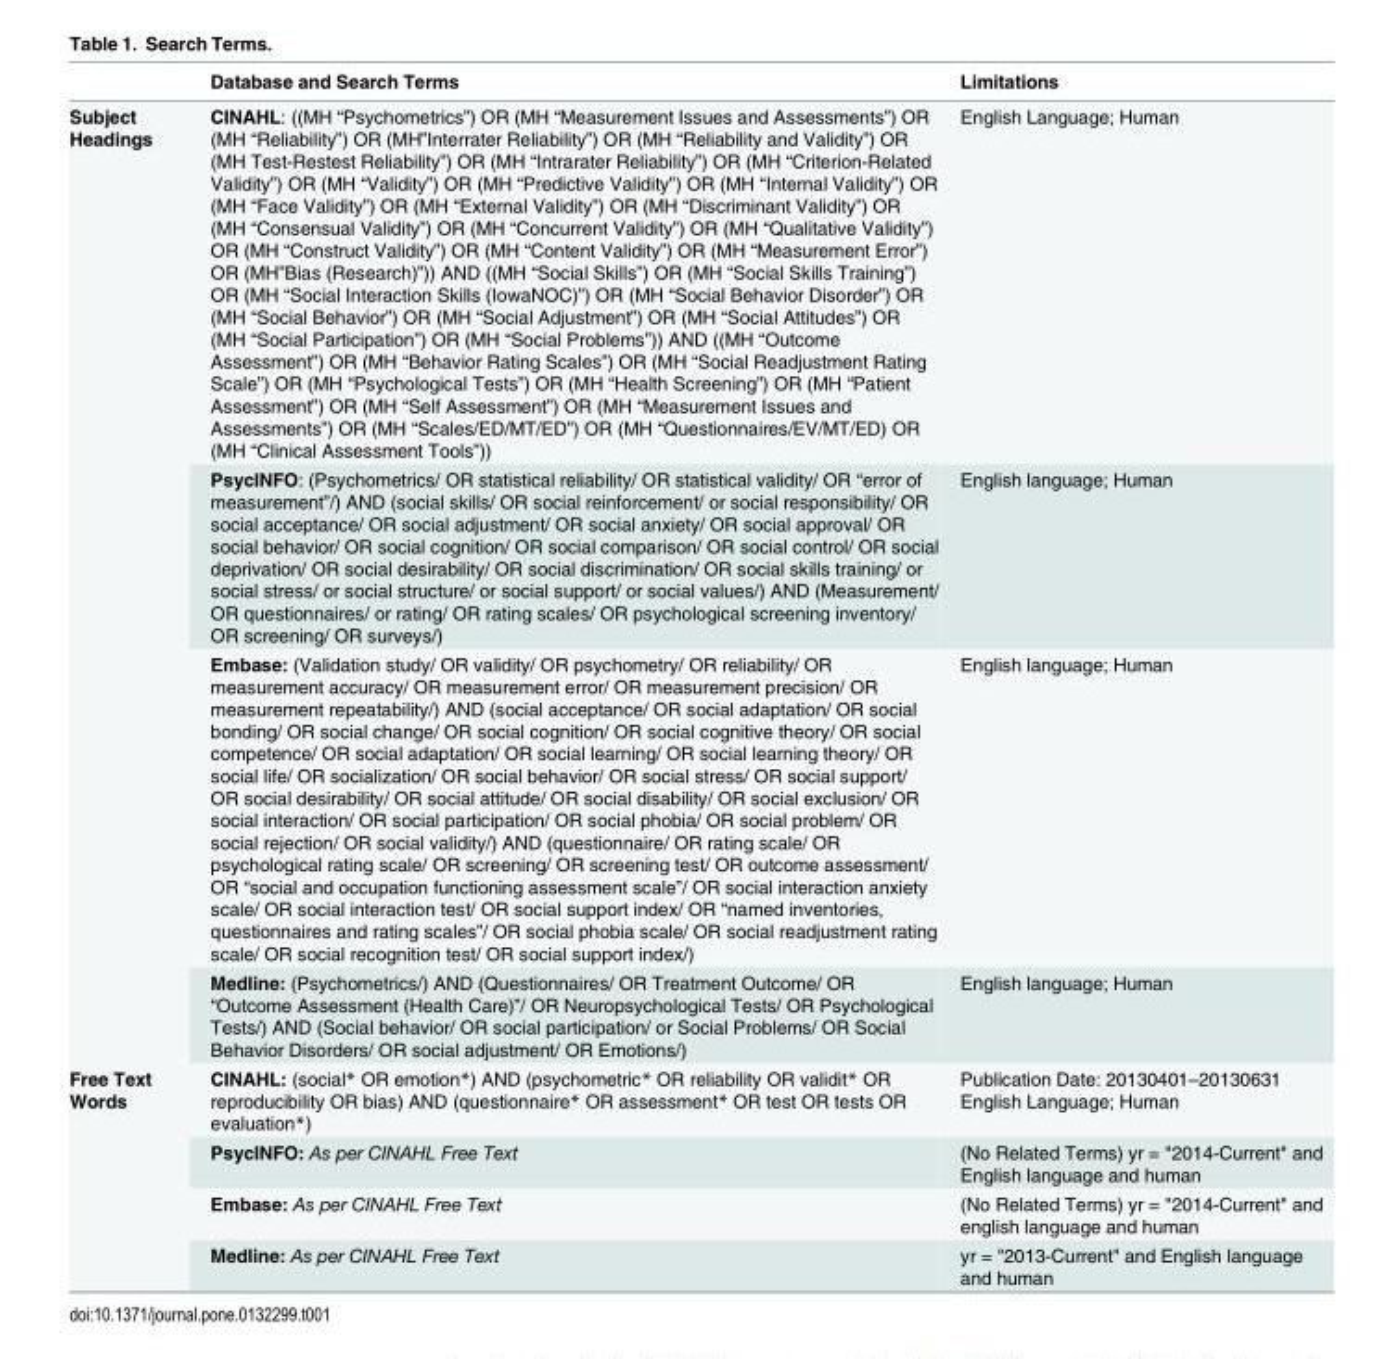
<table><thead><tr><td></td><td>Database and Search Terms</td><td>Limitations</td></tr></thead><tbody><tr><td rowspan="4">Subject Headings</td><td>CINAHL: ((MH “Psychometrics”) OR (MH “Measurement Issues and Assessments”) OR (MH “Reliability”) OR (MH”Interrater Reliability”) OR (MH “Reliability and Validity”) OR (MH Test-Restest Reliability”) OR (MH “Intrarater Reliability”) OR (MH “Criterion-Related Validity”) OR (MH “Validity”) OR (MH “Predictive Validity”) OR (MH “Internal Validity”) OR (MH “Face Validity”) OR (MH “External Validity”) OR (MH “Discriminant Validity”) OR (MH “Consensual Validity”) OR (MH “Concurrent Validity”) OR (MH “Qualitative Validity”) OR (MH “Construct Validity”) OR (MH “Content Validity”) OR (MH “Measurement Error”) OR (MH”Bias (Research)”)) AND ((MH “Social Skills”) OR (MH “Social Skills Training”) OR (MH “Social Interaction Skills (IowaNOC)”) OR (MH “Social Behavior Disorder”) OR (MH “Social Behavior”) OR (MH “Social Adjustment”) OR (MH “Social Attitudes”) OR (MH “Social Participation”) OR (MH “Social Problems”)) AND ((MH “Outcome Assessment”) OR (MH “Behavior Rating Scales”) OR (MH “Social Readjustment Rating Scale”) OR (MH “Psychological Tests”) OR (MH “Health Screening”) OR (MH “Patient Assessment”) OR (MH “Self Assessment”) OR (MH “Measurement Issues and Assessments”) OR (MH “Scales/ED/MT/ED”) OR (MH “Questionnaires/EV/MT/ED) OR (MH “Clinical Assessment Tools”))</td><td>English Language; Human</td></tr><tr><td>PsycINFO: (Psychometrics/ OR statistical reliability/ OR statistical validity/ OR “error of measurement”/) AND (social skills/ OR social reinforcement/ or social responsibility/ OR social acceptance/ OR social adjustment/ OR social anxiety/ OR social approval/ OR social behavior/ OR social cognition/ OR social comparison/ OR social control/ OR social deprivation/ OR social desirability/ OR social discrimination/ OR social skills training/ or social stress/ or social structure/ or social support/ or social values/) AND (Measurement/ OR questionnaires/ or rating/ OR rating scales/ OR psychological screening inventory/ OR screening/ OR surveys/)</td><td>English language; Human</td></tr><tr><td>Embase: (Validation study/ OR validity/ OR psychometry/ OR reliability/ OR measurement accuracy/ OR measurement error/ OR measurement precision/ OR measurement repeatability/) AND (social acceptance/ OR social adaptation/ OR social bonding/ OR social change/ OR social cognition/ OR social cognitive theory/ OR social competence/ OR social adaptation/ OR social learning/ OR social learning theory/ OR social life/ OR socialization/ OR social behavior/ OR social stress/ OR social support/ OR social desirability/ OR social attitude/ OR social disability/ OR social exclusion/ OR social interaction/ OR social participation/ OR social phobia/ OR social problem/ OR social rejection/ OR social validity/) AND (questionnaire/ OR rating scale/ OR psychological rating scale/ OR screening/ OR screening test/ OR outcome assessment/ OR “social and occupation functioning assessment scale”/ OR social interaction anxiety scale/ OR social interaction test/ OR social support index/ OR “named inventories, questionnaires and rating scales”/ OR social phobia scale/ OR social readjustment rating scale/ OR social recognition test/ OR social support index/)</td><td>English language; Human</td></tr><tr><td>Medline: (Psychometrics/) AND (Questionnaires/ OR Treatment Outcome/ OR “Outcome Assessment (Health Care)”/ OR Neuropsychological Tests/ OR Psychological Tests/) AND (Social behavior/ OR social participation/ or Social Problems/ OR Social Behavior Disorders/ OR social adjustment/ OR Emotions/)</td><td>English language; Human</td></tr><tr><td rowspan="4">Free Text Words</td><td>CINAHL: (social* OR emotion*) AND (psychometric* OR reliability OR validit* OR reproducibility OR bias) AND (questionnaire* OR assessment* OR test OR tests OR evaluation*)</td><td>Publication Date: 20130401–20130631 English Language; Human</td></tr><tr><td>PsycINFO: As per CINAHL Free Text</td><td>(No Related Terms) yr = &quot;2014-Current&quot; and English language and human</td></tr><tr><td>Embase: As per CINAHL Free Text</td><td>(No Related Terms) yr = &quot;2014-Current&quot; and english language and human</td></tr><tr><td>Medline: As per CINAHL Free Text</td><td>yr = &quot;2013-Current&quot; and English language and human</td></tr></tbody></table>